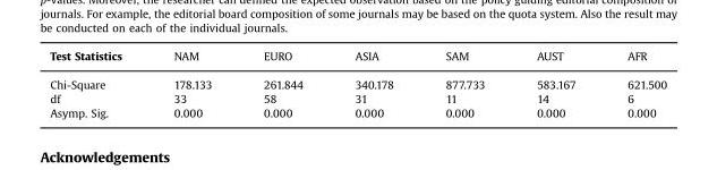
<table><thead><tr><td>Test Statistics</td><td>NAM</td><td>EURO</td><td>ASIA</td><td>SAM</td><td>AUST</td><td>AFR</td></tr></thead><tbody><tr><td>Chi-Square</td><td>178.133</td><td>261.844</td><td>340.178</td><td>877.733</td><td>583.167</td><td>621.500</td></tr><tr><td>df</td><td>33</td><td>58</td><td>31</td><td>11</td><td>14</td><td>6</td></tr><tr><td>Asymp. Sig.</td><td>0.000</td><td>0.000</td><td>0.000</td><td>0.000</td><td>0.000</td><td>0.000</td></tr></tbody></table>